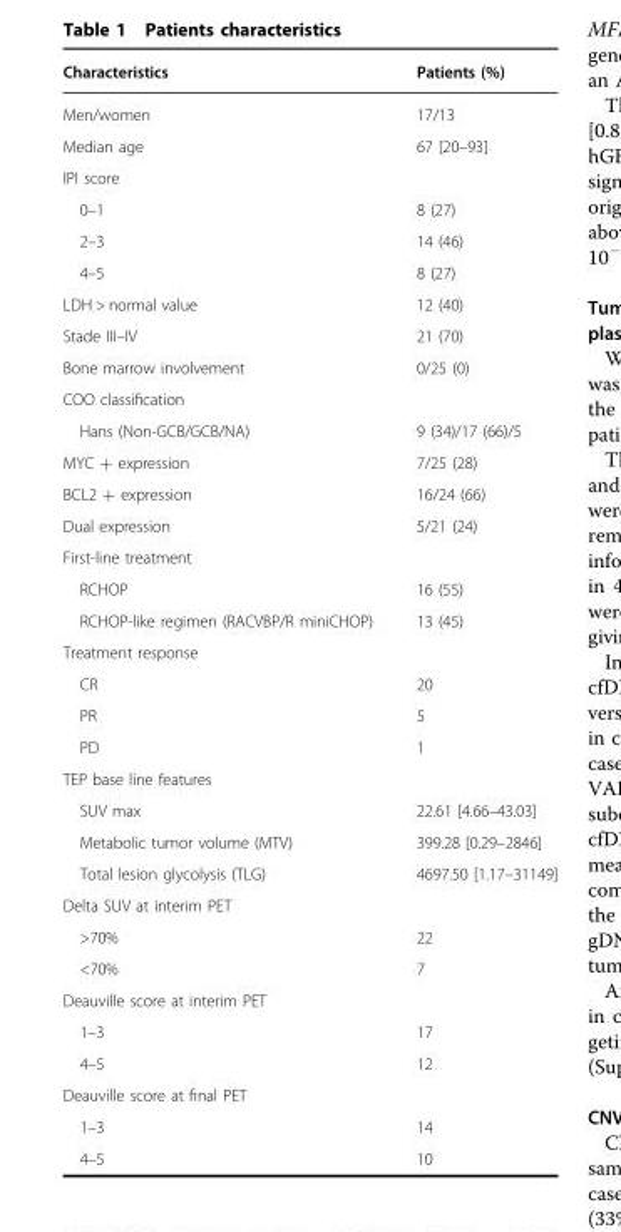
<table><thead><tr><td>Characteristics</td><td>Patients (%)</td></tr></thead><tbody><tr><td>Men/women</td><td>17/13</td></tr><tr><td>Median age</td><td>67 [20–93]</td></tr><tr><td colspan="2">IPI score</td></tr><tr><td>0–1</td><td>8 (27)</td></tr><tr><td>2–3</td><td>14 (46)</td></tr><tr><td>4–5</td><td>8 (27)</td></tr><tr><td>LDH &gt; normal value</td><td>12 (40)</td></tr><tr><td>Stade III–IV</td><td>21 (70)</td></tr><tr><td>Bone marrow involvement</td><td>0/25 (0)</td></tr><tr><td colspan="2">COO classification</td></tr><tr><td>Hans (Non-GCB/GCB/NA)</td><td>9 (34)/17 (66)/5</td></tr><tr><td>MYC + expression</td><td>7/25 (28)</td></tr><tr><td>BCL2 + expression</td><td>16/24 (66)</td></tr><tr><td>Dual expression</td><td>5/21 (24)</td></tr><tr><td colspan="2">First-line treatment</td></tr><tr><td>RCHOP</td><td>16 (55)</td></tr><tr><td>RCHOP-like regimen (RACVBP/R miniCHOP)</td><td>13 (45)</td></tr><tr><td colspan="2">Treatment response</td></tr><tr><td>CR</td><td>20</td></tr><tr><td>PR</td><td>5</td></tr><tr><td>PD</td><td>1</td></tr><tr><td colspan="2">TEP base line features</td></tr><tr><td>SUV max</td><td>22.61 [4.66–43.03]</td></tr><tr><td>Metabolic tumor volume (MTV)</td><td>399.28 [0.29–2846]</td></tr><tr><td>Total lesion glycolysis (TLG)</td><td>4697.50 [1.17–31149]</td></tr><tr><td colspan="2">Delta SUV at interim PET</td></tr><tr><td>&gt;70%</td><td>22</td></tr><tr><td>&lt;70%</td><td>7</td></tr><tr><td colspan="2">Deauville score at interim PET</td></tr><tr><td>1–3</td><td>17</td></tr><tr><td>4–5</td><td>12</td></tr><tr><td colspan="2">Deauville score at final PET</td></tr><tr><td>1–3</td><td>14</td></tr><tr><td>4–5</td><td>10</td></tr></tbody></table>